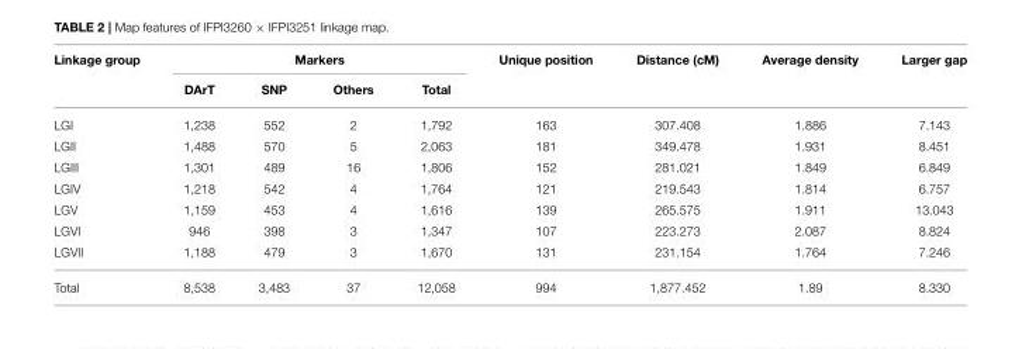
<table><thead><tr><td rowspan="2">Linkage group</td><td colspan="4">Markers</td><td rowspan="2">Unique position</td><td rowspan="2">Distance (cM)</td><td rowspan="2">Average density</td><td rowspan="2">Larger gap</td></tr><tr><td>DArT</td><td>SNP</td><td>Others</td><td>Total</td></tr></thead><tbody><tr><td>LGI</td><td>1,238</td><td>552</td><td>2</td><td>1,792</td><td>163</td><td>307.408</td><td>1.886</td><td>7.143</td></tr><tr><td>LGII</td><td>1,488</td><td>570</td><td>5</td><td>2,063</td><td>181</td><td>349.478</td><td>1.931</td><td>8.451</td></tr><tr><td>LGIII</td><td>1,301</td><td>489</td><td>16</td><td>1,806</td><td>152</td><td>281.021</td><td>1.849</td><td>6.849</td></tr><tr><td>LGIV</td><td>1,218</td><td>542</td><td>4</td><td>1,764</td><td>121</td><td>219.543</td><td>1.814</td><td>6.757</td></tr><tr><td>LGV</td><td>1,159</td><td>453</td><td>4</td><td>1,616</td><td>139</td><td>265.575</td><td>1.911</td><td>13.043</td></tr><tr><td>LGVI</td><td>946</td><td>398</td><td>3</td><td>1,347</td><td>107</td><td>223.273</td><td>2.087</td><td>8.824</td></tr><tr><td>LGVII</td><td>1,188</td><td>479</td><td>3</td><td>1,670</td><td>131</td><td>231.154</td><td>1.764</td><td>7.246</td></tr><tr><td>Total</td><td>8,538</td><td>3,483</td><td>37</td><td>12,058</td><td>994</td><td>1,877.452</td><td>1.89</td><td>8.330</td></tr></tbody></table>